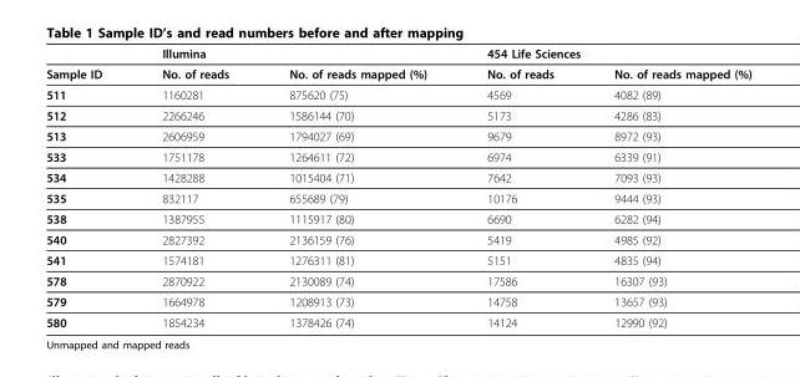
<table><thead><tr><td rowspan="2">Sample ID</td><td colspan="2">Illumina</td><td colspan="2">454 Life Sciences</td></tr><tr><td>No. of reads</td><td>No. of reads mapped (%)</td><td>No. of reads</td><td>No. of reads mapped (%)</td></tr></thead><tbody><tr><td>511</td><td>1160281</td><td>875620 (75)</td><td>4569</td><td>4082 (89)</td></tr><tr><td>512</td><td>2266246</td><td>1586144 (70)</td><td>5173</td><td>4286 (83)</td></tr><tr><td>513</td><td>2606959</td><td>1794027 (69)</td><td>9679</td><td>8972 (93)</td></tr><tr><td>533</td><td>1751178</td><td>1264611 (72)</td><td>6974</td><td>6339 (91)</td></tr><tr><td>534</td><td>1428288</td><td>1015404 (71)</td><td>7642</td><td>7093 (93)</td></tr><tr><td>535</td><td>832117</td><td>655689 (79)</td><td>10176</td><td>9444 (93)</td></tr><tr><td>538</td><td>1387955</td><td>1115917 (80)</td><td>6690</td><td>6282 (94)</td></tr><tr><td>540</td><td>2827392</td><td>2136159 (76)</td><td>5419</td><td>4985 (92)</td></tr><tr><td>541</td><td>1574181</td><td>1276311 (81)</td><td>5151</td><td>4835 (94)</td></tr><tr><td>578</td><td>2870922</td><td>2130089 (74)</td><td>17586</td><td>16307 (93)</td></tr><tr><td>579</td><td>1664978</td><td>1208913 (73)</td><td>14758</td><td>13657 (93)</td></tr><tr><td>580</td><td>1854234</td><td>1378426 (74)</td><td>14124</td><td>12990 (92)</td></tr></tbody></table>